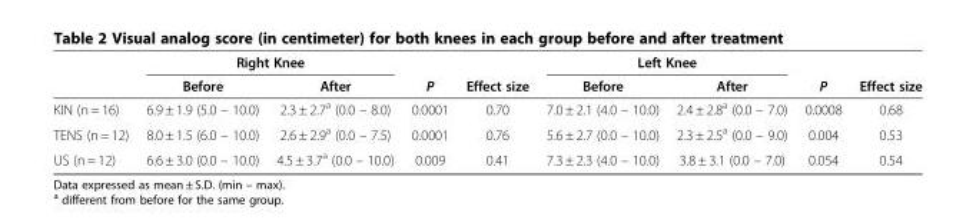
<table><thead><tr><td rowspan="2"></td><td colspan="2">Right Knee</td><td rowspan="2">P</td><td rowspan="2">Effect size</td><td colspan="2">Left Knee</td><td rowspan="2">P</td><td rowspan="2">Effect size</td></tr><tr><td>Before</td><td>After</td><td>Before</td><td>After</td></tr></thead><tbody><tr><td>KIN (n = 16)</td><td>6.9 ± 1.9 (5.0 – 10.0)</td><td>2.3 ± 2.7<sup>a</sup> (0.0 – 8.0)</td><td>0.0001</td><td>0.70</td><td>7.0 ± 2.1 (4.0 – 10.0)</td><td>2.4 ± 2.8<sup>a</sup> (0.0 – 7.0)</td><td>0.0008</td><td>0.68</td></tr><tr><td>TENS (n = 12)</td><td>8.0 ± 1.5 (6.0 – 10.0)</td><td>2.6 ± 2.9<sup>a</sup> (0.0 – 7.5)</td><td>0.0001</td><td>0.76</td><td>5.6 ± 2.7 (0.0 – 10.0)</td><td>2.3 ± 2.5<sup>a</sup> (0.0 – 9.0)</td><td>0.004</td><td>0.53</td></tr><tr><td>US (n = 12)</td><td>6.6 ± 3.0 (0.0 – 10.0)</td><td>4.5 ± 3.7<sup>a</sup> (0.0 – 10.0)</td><td>0.009</td><td>0.41</td><td>7.3 ± 2.3 (4.0 – 10.0)</td><td>3.8 ± 3.1 (0.0 – 7.0)</td><td>0.054</td><td>0.54</td></tr></tbody></table>